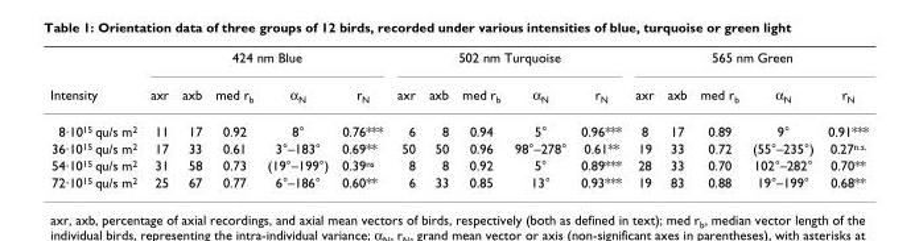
<table><thead><tr><td rowspan="2">Intensity</td><td colspan="5">424 nm Blue</td><td colspan="5">502 nm Turquoise</td><td colspan="5">565 nm Green</td></tr><tr><td>axr</td><td>axb</td><td>med r<sub>b</sub></td><td>α<sub>N</sub></td><td>r<sub>N</sub></td><td>axr</td><td>axb</td><td>med r<sub>b</sub></td><td>α<sub>N</sub></td><td>r<sub>N</sub></td><td>axr</td><td>axb</td><td>med r<sub>b</sub></td><td>α<sub>N</sub></td><td>r<sub>N</sub></td></tr></thead><tbody><tr><td>8·10<sup>15</sup> qu/s m<sup>2</sup></td><td>11</td><td>17</td><td>0.92</td><td>8°</td><td>0.76***</td><td>6</td><td>8</td><td>0.94</td><td>5°</td><td>0.96***</td><td>8</td><td>17</td><td>0.89</td><td>9°</td><td>0.91***</td></tr><tr><td>36·10<sup>15</sup> qu/s m<sup>2</sup></td><td>17</td><td>33</td><td>0.61</td><td>3°–183°</td><td>0.69**</td><td>50</td><td>50</td><td>0.96</td><td>98°–278°</td><td>0.61**</td><td>19</td><td>33</td><td>0.72</td><td>(55°–235°)</td><td>0.27<sup>n.s.</sup></td></tr><tr><td>54·10<sup>15</sup> qu/s m<sup>2</sup></td><td>31</td><td>58</td><td>0.73</td><td>(19°–199°)</td><td>0.39<sup>ns</sup></td><td>8</td><td>8</td><td>0.92</td><td>5°</td><td>0.89***</td><td>28</td><td>33</td><td>0.70</td><td>102°–282°</td><td>0.70**</td></tr><tr><td>72·10<sup>15</sup> qu/s m<sup>2</sup></td><td>25</td><td>67</td><td>0.77</td><td>6°–186°</td><td>0.60**</td><td>6</td><td>33</td><td>0.85</td><td>13°</td><td>0.93***</td><td>19</td><td>83</td><td>0.88</td><td>19°–199°</td><td>0.68**</td></tr></tbody></table>